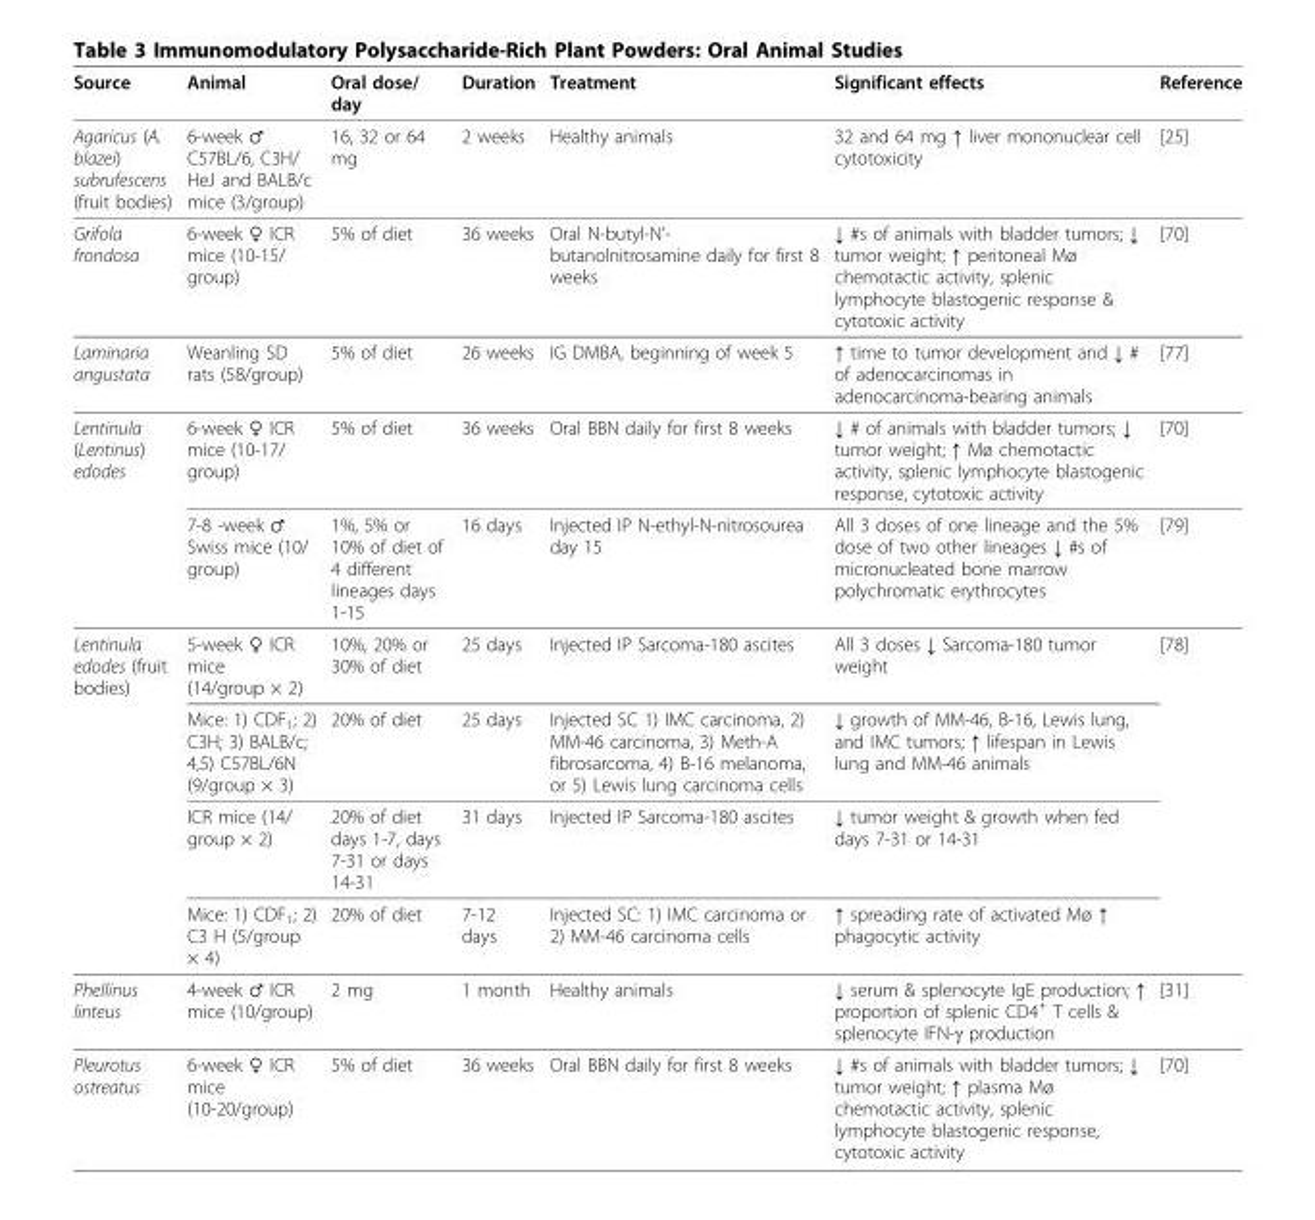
<table><thead><tr><td>Source</td><td>Animal</td><td>Oral dose/ day</td><td>Duration</td><td>Treatment</td><td>Significant effects</td><td>Reference</td></tr></thead><tbody><tr><td>Agaricus (A. blazei) subrufescens (fruit bodies)</td><td>6-week ♂ C57BL/6, C3H/ HeJ and BALB/c mice (3/group)</td><td>16, 32 or 64 mg</td><td>2 weeks</td><td>Healthy animals</td><td>32 and 64 mg ↑ liver mononuclear cell cytotoxicity</td><td>[25]</td></tr><tr><td>Grifola frondosa</td><td>6-week ♀ ICR mice (10-15/ group)</td><td>5% of diet</td><td>36 weeks</td><td>Oral N-butyl-N’- butanolnitrosamine daily for first 8 weeks</td><td>↓ #s of animals with bladder tumors; ↓ tumor weight; ↑ peritoneal Mø chemotactic activity, splenic lymphocyte blastogenic response &amp; cytotoxic activity</td><td>[70]</td></tr><tr><td>Laminaria angustata</td><td>Weanling SD rats (58/group)</td><td>5% of diet</td><td>26 weeks</td><td>IG DMBA, beginning of week 5</td><td>↑ time to tumor development and ↓ # of adenocarcinomas in adenocarcinoma-bearing animals</td><td>[77]</td></tr><tr><td rowspan="2">Lentinula (Lentinus) edodes</td><td>6-week ♀ ICR mice (10-17/ group)</td><td>5% of diet</td><td>36 weeks</td><td>Oral BBN daily for first 8 weeks</td><td>↓ # of animals with bladder tumors; ↓ tumor weight; ↑ Mø chemotactic activity, splenic lymphocyte blastogenic response, cytotoxic activity</td><td>[70]</td></tr><tr><td>7-8 -week ♂ Swiss mice (10/ group)</td><td>1%, 5% or 10% of diet of 4 different lineages days 1-15</td><td>16 days</td><td>Injected IP N-ethyl-N-nitrosourea day 15</td><td>All 3 doses of one lineage and the 5% dose of two other lineages ↓ #s of micronucleated bone marrow polychromatic erythrocytes</td><td>[79]</td></tr><tr><td rowspan="4">Lentinula edodes (fruit bodies)</td><td>5-week ♀ ICR mice (14/group × 2)</td><td>10%, 20% or 30% of diet</td><td>25 days</td><td>Injected IP Sarcoma-180 ascites</td><td>All 3 doses ↓ Sarcoma-180 tumor weight</td><td>[78]</td></tr><tr><td>Mice: 1) CDF<sub>1</sub>; 2) C3H; 3) BALB/c; 4,5) C57BL/6N (9/group × 3)</td><td>20% of diet</td><td>25 days</td><td>Injected SC 1) IMC carcinoma, 2) MM-46 carcinoma, 3) Meth-A fibrosarcoma, 4) B-16 melanoma, or 5) Lewis lung carcinoma cells</td><td>↓ growth of MM-46, B-16, Lewis lung, and IMC tumors; ↑ lifespan in Lewis lung and MM-46 animals</td><td></td></tr><tr><td>ICR mice (14/ group × 2)</td><td>20% of diet days 1-7, days 7-31 or days 14-31</td><td>31 days</td><td>Injected IP Sarcoma-180 ascites</td><td>↓ tumor weight &amp; growth when fed days 7-31 or 14-31</td><td></td></tr><tr><td>Mice: 1) CDF<sub>1</sub>; 2) C3 H (5/group × 4)</td><td>20% of diet</td><td>7-12 days</td><td>Injected SC: 1) IMC carcinoma or 2) MM-46 carcinoma cells</td><td>↑ spreading rate of activated Mø ↑ phagocytic activity</td><td></td></tr><tr><td>Phellinus linteus</td><td>4-week ♂ ICR mice (10/group)</td><td>2 mg</td><td>1 month</td><td>Healthy animals</td><td>↓ serum &amp; splenocyte IgE production; ↑ proportion of splenic CD4<sup>+</sup> T cells &amp; splenocyte IFN-γ production</td><td>[31]</td></tr><tr><td>Pleurotus ostreatus</td><td>6-week ♀ ICR mice (10-20/group)</td><td>5% of diet</td><td>36 weeks</td><td>Oral BBN daily for first 8 weeks</td><td>↓ #s of animals with bladder tumors; ↓ tumor weight; ↑ plasma Mø chemotactic activity, splenic lymphocyte blastogenic response, cytotoxic activity</td><td>[70]</td></tr></tbody></table>